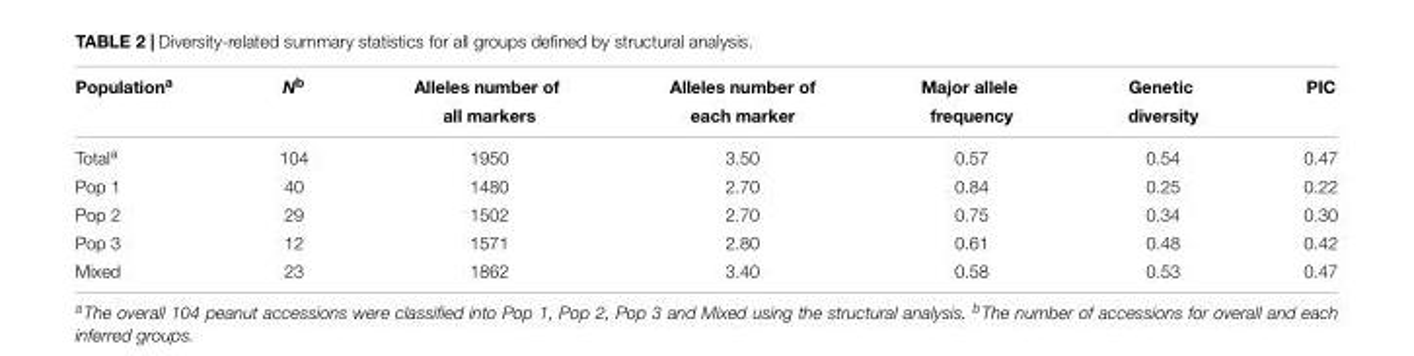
<table><thead><tr><td rowspan="2">Population<sup>a</sup></td><td rowspan="2">N<sup>b</sup></td><td rowspan="2">Alleles number of all markers</td><td rowspan="2">Alleles number of each marker</td><td rowspan="2">Major allele frequency</td><td rowspan="2">Genetic diversity</td><td rowspan="2">PIC</td></tr><tr></tr></thead><tbody><tr><td>Total<sup>a</sup></td><td>104</td><td>1950</td><td>3.50</td><td>0.57</td><td>0.54</td><td>0.47</td></tr><tr><td>Pop 1</td><td>40</td><td>1480</td><td>2.70</td><td>0.84</td><td>0.25</td><td>0.22</td></tr><tr><td>Pop 2</td><td>29</td><td>1502</td><td>2.70</td><td>0.75</td><td>0.34</td><td>0.30</td></tr><tr><td>Pop 3</td><td>12</td><td>1571</td><td>2.80</td><td>0.61</td><td>0.48</td><td>0.42</td></tr><tr><td>Mixed</td><td>23</td><td>1862</td><td>3.40</td><td>0.58</td><td>0.53</td><td>0.47</td></tr></tbody></table>